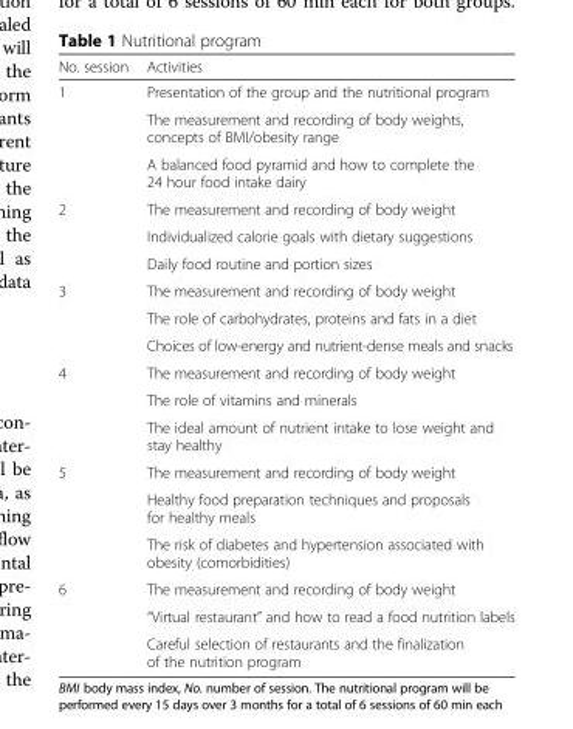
<table><thead><tr><td>No. session</td><td>Activities</td></tr></thead><tbody><tr><td rowspan="3">1</td><td>Presentation of the group and the nutritional program</td></tr><tr><td>The measurement and recording of body weights, concepts of BMI/obesity range</td></tr><tr><td>A balanced food pyramid and how to complete the 24 hour food intake dairy</td></tr><tr><td rowspan="3">2</td><td>The measurement and recording of body weight</td></tr><tr><td>Individualized calorie goals with dietary suggestions</td></tr><tr><td>Daily food routine and portion sizes</td></tr><tr><td rowspan="3">3</td><td>The measurement and recording of body weight</td></tr><tr><td>The role of carbohydrates, proteins and fats in a diet</td></tr><tr><td>Choices of low-energy and nutrient-dense meals and snacks</td></tr><tr><td rowspan="3">4</td><td>The measurement and recording of body weight</td></tr><tr><td>The role of vitamins and minerals</td></tr><tr><td>The ideal amount of nutrient intake to lose weight and stay healthy</td></tr><tr><td rowspan="3">5</td><td>The measurement and recording of body weight</td></tr><tr><td>Healthy food preparation techniques and proposals for healthy meals</td></tr><tr><td>The risk of diabetes and hypertension associated with obesity (comorbidities)</td></tr><tr><td rowspan="3">6</td><td>The measurement and recording of body weight</td></tr><tr><td>“Virtual restaurant” and how to read a food nutrition labels</td></tr><tr><td>Careful selection of restaurants and the finalization of the nutrition program</td></tr></tbody></table>